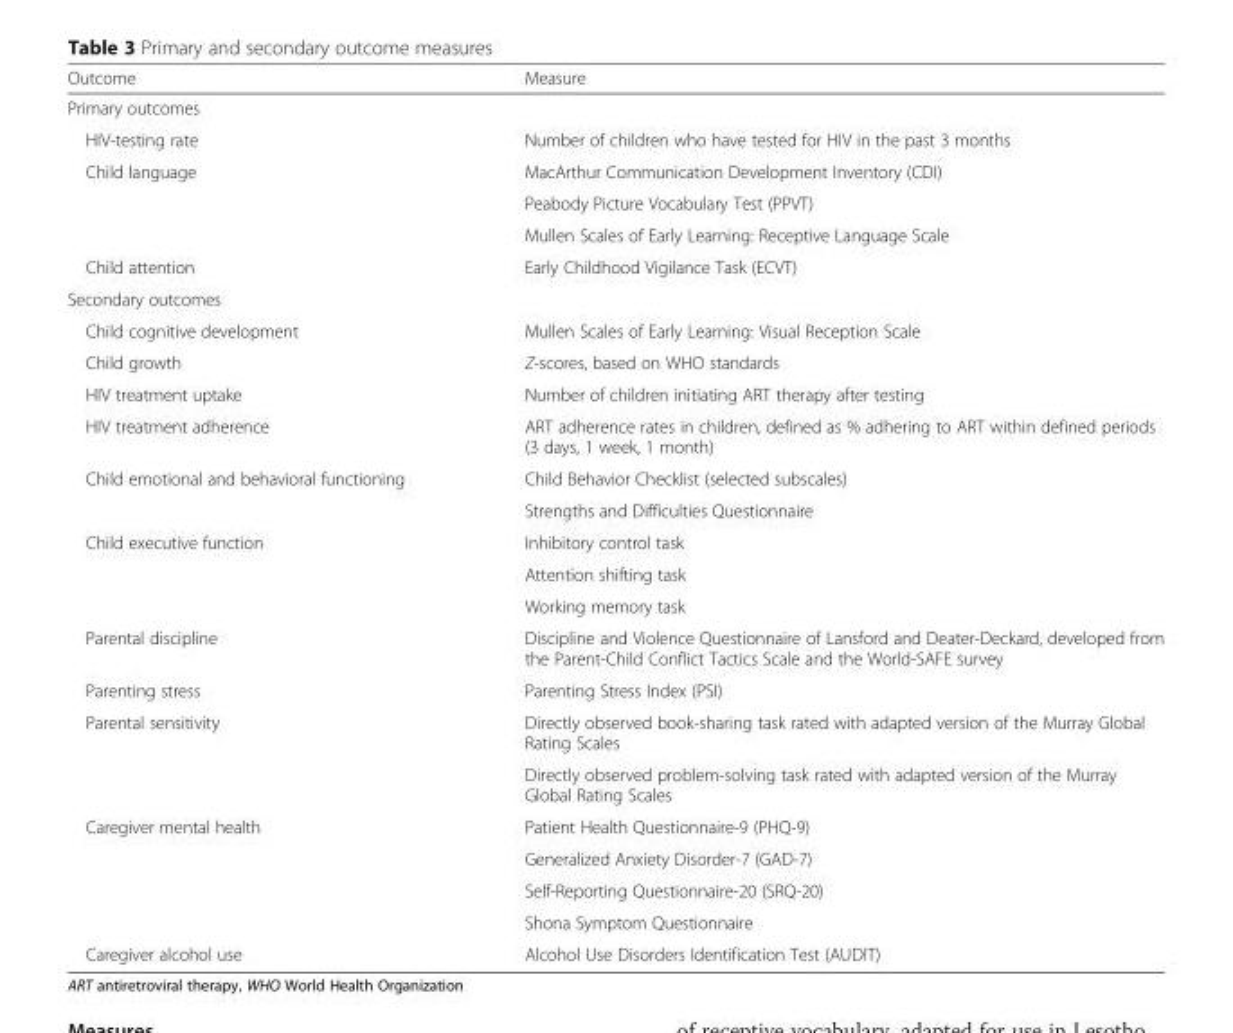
<table><thead><tr><td>Outcome</td><td>Measure</td></tr></thead><tbody><tr><td colspan="2">Primary outcomes</td></tr><tr><td>HIV-testing rate</td><td>Number of children who have tested for HIV in the past 3 months</td></tr><tr><td rowspan="3">Child language</td><td>MacArthur Communication Development Inventory (CDI)</td></tr><tr><td>Peabody Picture Vocabulary Test (PPVT)</td></tr><tr><td>Mullen Scales of Early Learning: Receptive Language Scale</td></tr><tr><td>Child attention</td><td>Early Childhood Vigilance Task (ECVT)</td></tr><tr><td colspan="2">Secondary outcomes</td></tr><tr><td>Child cognitive development</td><td>Mullen Scales of Early Learning: Visual Reception Scale</td></tr><tr><td>Child growth</td><td>Z-scores, based on WHO standards</td></tr><tr><td>HIV treatment uptake</td><td>Number of children initiating ART therapy after testing</td></tr><tr><td>HIV treatment adherence</td><td>ART adherence rates in children, defined as % adhering to ART within defined periods (3 days, 1 week, 1 month)</td></tr><tr><td rowspan="2">Child emotional and behavioral functioning</td><td>Child Behavior Checklist (selected subscales)</td></tr><tr><td>Strengths and Difficulties Questionnaire</td></tr><tr><td rowspan="3">Child executive function</td><td>Inhibitory control task</td></tr><tr><td>Attention shifting task</td></tr><tr><td>Working memory task</td></tr><tr><td>Parental discipline</td><td>Discipline and Violence Questionnaire of Lansford and Deater-Deckard, developed from the Parent-Child Conflict Tactics Scale and the World-SAFE survey</td></tr><tr><td>Parenting stress</td><td>Parenting Stress Index (PSI)</td></tr><tr><td rowspan="2">Parental sensitivity</td><td>Directly observed book-sharing task rated with adapted version of the Murray Global Rating Scales</td></tr><tr><td>Directly observed problem-solving task rated with adapted version of the Murray Global Rating Scales</td></tr><tr><td rowspan="4">Caregiver mental health</td><td>Patient Health Questionnaire-9 (PHQ-9)</td></tr><tr><td>Generalized Anxiety Disorder-7 (GAD-7)</td></tr><tr><td>Self-Reporting Questionnaire-20 (SRQ-20)</td></tr><tr><td>Shona Symptom Questionnaire</td></tr><tr><td>Caregiver alcohol use</td><td>Alcohol Use Disorders Identification Test (AUDIT)</td></tr></tbody></table>